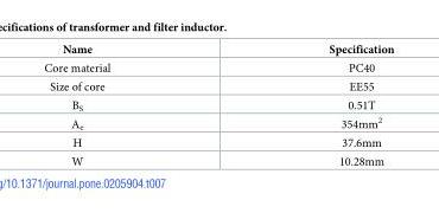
<table><thead><tr><td>Name</td><td>Specification</td></tr></thead><tbody><tr><td>Core material</td><td>PC40</td></tr><tr><td>Size of core</td><td>EE55</td></tr><tr><td>B<sub>S</sub></td><td>0.51T</td></tr><tr><td>A<sub>e</sub></td><td>354mm<sup>2</sup></td></tr><tr><td>H</td><td>37.6mm</td></tr><tr><td>W</td><td>10.28mm</td></tr></tbody></table>